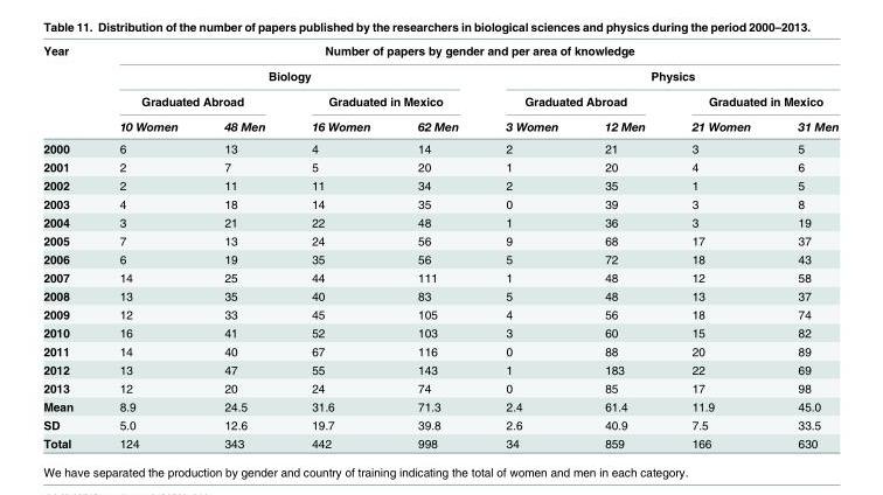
<table><thead><tr><td rowspan="4">Year</td><td colspan="8">Number of papers by gender and per area of knowledge</td></tr><tr><td colspan="4">Biology</td><td colspan="4">Physics</td></tr><tr><td colspan="2">Graduated Abroad</td><td colspan="2">Graduated in Mexico</td><td colspan="2">Graduated Abroad</td><td colspan="2">Graduated in Mexico</td></tr><tr><td>10 Women</td><td>48 Men</td><td>16 Women</td><td>62 Men</td><td>3 Women</td><td>12 Men</td><td>21 Women</td><td>31 Men</td></tr></thead><tbody><tr><td>2000</td><td>6</td><td>13</td><td>4</td><td>14</td><td>2</td><td>21</td><td>3</td><td>5</td></tr><tr><td>2001</td><td>2</td><td>7</td><td>5</td><td>20</td><td>1</td><td>20</td><td>4</td><td>6</td></tr><tr><td>2002</td><td>2</td><td>11</td><td>11</td><td>34</td><td>2</td><td>35</td><td>1</td><td>5</td></tr><tr><td>2003</td><td>4</td><td>18</td><td>14</td><td>35</td><td>0</td><td>39</td><td>3</td><td>8</td></tr><tr><td>2004</td><td>3</td><td>21</td><td>22</td><td>48</td><td>1</td><td>36</td><td>3</td><td>19</td></tr><tr><td>2005</td><td>7</td><td>13</td><td>24</td><td>56</td><td>9</td><td>68</td><td>17</td><td>37</td></tr><tr><td>2006</td><td>6</td><td>19</td><td>35</td><td>56</td><td>5</td><td>72</td><td>18</td><td>43</td></tr><tr><td>2007</td><td>14</td><td>25</td><td>44</td><td>111</td><td>1</td><td>48</td><td>12</td><td>58</td></tr><tr><td>2008</td><td>13</td><td>35</td><td>40</td><td>83</td><td>5</td><td>48</td><td>13</td><td>37</td></tr><tr><td>2009</td><td>12</td><td>33</td><td>45</td><td>105</td><td>4</td><td>56</td><td>18</td><td>74</td></tr><tr><td>2010</td><td>16</td><td>41</td><td>52</td><td>103</td><td>3</td><td>60</td><td>15</td><td>82</td></tr><tr><td>2011</td><td>14</td><td>40</td><td>67</td><td>116</td><td>0</td><td>88</td><td>20</td><td>89</td></tr><tr><td>2012</td><td>13</td><td>47</td><td>55</td><td>143</td><td>1</td><td>183</td><td>22</td><td>69</td></tr><tr><td>2013</td><td>12</td><td>20</td><td>24</td><td>74</td><td>0</td><td>85</td><td>17</td><td>98</td></tr><tr><td>Mean</td><td>8.9</td><td>24.5</td><td>31.6</td><td>71.3</td><td>2.4</td><td>61.4</td><td>11.9</td><td>45.0</td></tr><tr><td>SD</td><td>5.0</td><td>12.6</td><td>19.7</td><td>39.8</td><td>2.6</td><td>40.9</td><td>7.5</td><td>33.5</td></tr><tr><td>Total</td><td>124</td><td>343</td><td>442</td><td>998</td><td>34</td><td>859</td><td>166</td><td>630</td></tr></tbody></table>